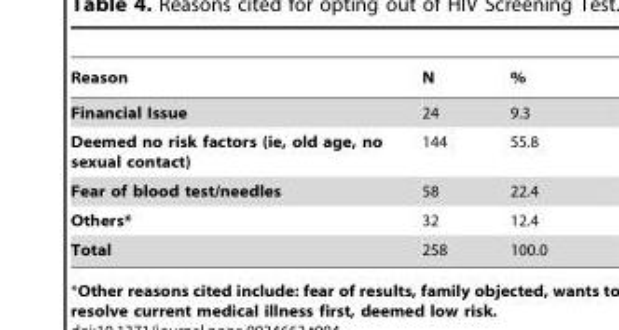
<table><thead><tr><td>Reason</td><td>N</td><td>%</td></tr></thead><tbody><tr><td>Financial Issue</td><td>24</td><td>9.3</td></tr><tr><td>Deemed no risk factors (ie, old age, no sexual contact)</td><td>144</td><td>55.8</td></tr><tr><td>Fear of blood test/needles</td><td>58</td><td>22.4</td></tr><tr><td>Others*</td><td>32</td><td>12.4</td></tr><tr><td>Total</td><td>258</td><td>100.0</td></tr></tbody></table>